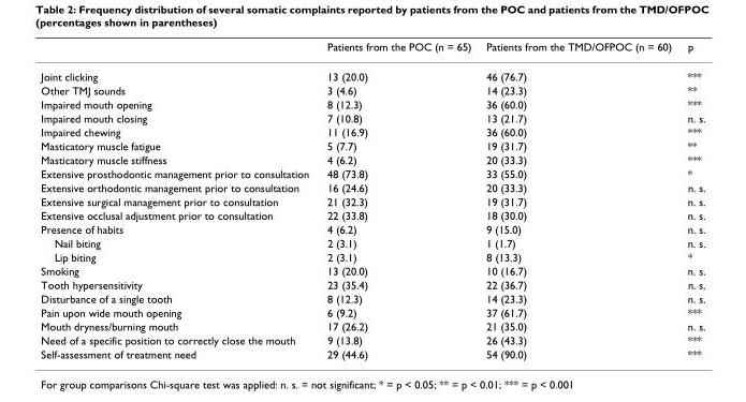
<table><thead><tr><td></td><td>Patients from the POC (n = 65)</td><td>Patients from the TMD/OFPOC (n = 60)</td><td>p</td></tr></thead><tbody><tr><td>Joint clicking</td><td>13 (20.0)</td><td>46 (76.7)</td><td>***</td></tr><tr><td>Other TMJ sounds</td><td>3 (4.6)</td><td>14 (23.3)</td><td>**</td></tr><tr><td>Impaired mouth opening</td><td>8 (12.3)</td><td>36 (60.0)</td><td>***</td></tr><tr><td>Impaired mouth closing</td><td>7 (10.8)</td><td>13 (21.7)</td><td>n. s.</td></tr><tr><td>Impaired chewing</td><td>11 (16.9)</td><td>36 (60.0)</td><td>***</td></tr><tr><td>Masticatory muscle fatigue</td><td>5 (7.7)</td><td>19 (31.7)</td><td>**</td></tr><tr><td>Masticatory muscle stiffness</td><td>4 (6.2)</td><td>20 (33.3)</td><td>***</td></tr><tr><td>Extensive prosthodontic management prior to consultation</td><td>48 (73.8)</td><td>33 (55.0)</td><td>*</td></tr><tr><td>Extensive orthodontic management prior to consultation</td><td>16 (24.6)</td><td>20 (33.3)</td><td>n. s.</td></tr><tr><td>Extensive surgical management prior to consultation</td><td>21 (32.3)</td><td>19 (31.7)</td><td>n. s.</td></tr><tr><td>Extensive occlusal adjustment prior to consultation</td><td>22 (33.8)</td><td>18 (30.0)</td><td>n. s.</td></tr><tr><td>Presence of habits</td><td>4 (6.2)</td><td>9 (15.0)</td><td>n. s.</td></tr><tr><td>Nail biting</td><td>2 (3.1)</td><td>1 (1.7)</td><td>n. s.</td></tr><tr><td>Lip biting</td><td>2 (3.1)</td><td>8 (13.3)</td><td>*</td></tr><tr><td>Smoking</td><td>13 (20.0)</td><td>10 (16.7)</td><td>n. s.</td></tr><tr><td>Tooth hypersensitivity</td><td>23 (35.4)</td><td>22 (36.7)</td><td>n. s.</td></tr><tr><td>Disturbance of a single tooth</td><td>8 (12.3)</td><td>14 (23.3)</td><td>n. s.</td></tr><tr><td>Pain upon wide mouth opening</td><td>6 (9.2)</td><td>37 (61.7)</td><td>***</td></tr><tr><td>Mouth dryness/burning mouth</td><td>17 (26.2)</td><td>21 (35.0)</td><td>n. s.</td></tr><tr><td>Need of a specific position to correctly close the mouth</td><td>9 (13.8)</td><td>26 (43.3)</td><td>***</td></tr><tr><td>Self-assessment of treatment need</td><td>29 (44.6)</td><td>54 (90.0)</td><td>***</td></tr></tbody></table>